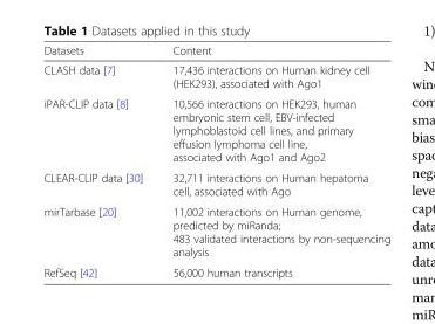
<table><thead><tr><td>Datasets</td><td>Content</td></tr></thead><tbody><tr><td>CLASH data [7]</td><td>17,436 interactions on Human kidney cell (HEK293), associated with Ago1</td></tr><tr><td>iPAR-CLIP data [8]</td><td>10,566 interactions on HEK293, human embryonic stem cell, EBV-infected lymphoblastoid cell lines, and primary effusion lymphoma cell line, associated with Ago1 and Ago2</td></tr><tr><td>CLEAR-CLIP data [30]</td><td>32,711 interactions on Human hepatoma cell, associated with Ago</td></tr><tr><td>mirTarbase [20]</td><td>11,002 interactions on Human genome, predicted by miRanda; 483 validated interactions by non-sequencing analysis</td></tr><tr><td>RefSeq [42]</td><td>56,000 human transcripts</td></tr></tbody></table>